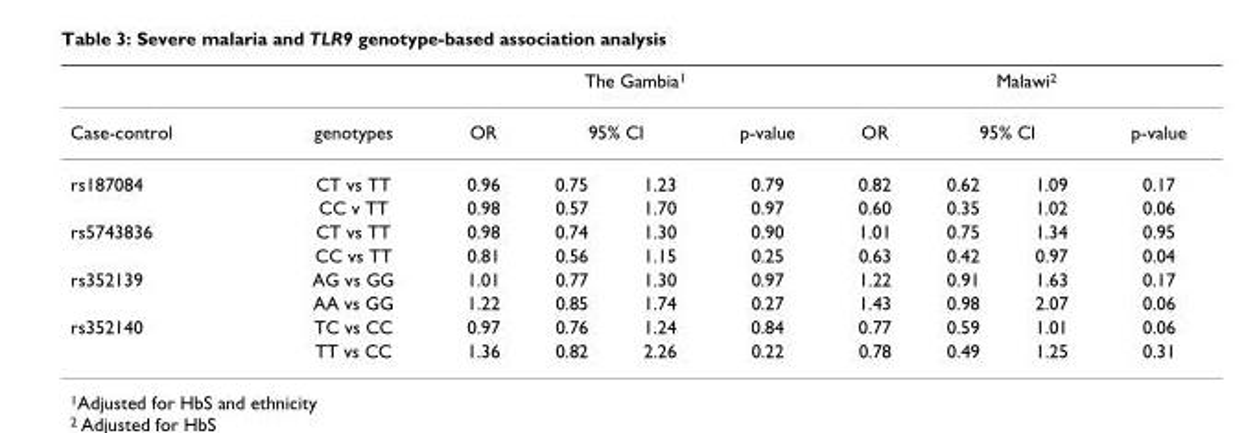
<table><thead><tr><td rowspan="3">Case-control rs187084</td><td rowspan="3">genotypes CT vs TT</td><td colspan="4">The Gambia1</td><td colspan="4">Malawi2</td></tr><tr><td rowspan="2">OR 0.96</td><td colspan="2">95% CI</td><td rowspan="2">p-value 0.79</td><td rowspan="2">OR 0.82</td><td colspan="2">95% CI</td><td rowspan="2">p-value 0.17</td></tr><tr><td>0.75</td><td>1.23</td><td>0.62</td><td>1.09</td></tr></thead><tbody><tr><td></td><td>CC v TT</td><td>0.98</td><td>0.57</td><td>1.70</td><td>0.97</td><td>0.60</td><td>0.35</td><td>1.02</td><td>0.06</td></tr><tr><td rowspan="2">rs5743836</td><td>CT vs TT</td><td>0.98</td><td>0.74</td><td>1.30</td><td>0.90</td><td>1.01</td><td>0.75</td><td>1.34</td><td>0.95</td></tr><tr><td>CC vs TT</td><td>0.81</td><td>0.56</td><td>1.15</td><td>0.25</td><td>0.63</td><td>0.42</td><td>0.97</td><td>0.04</td></tr><tr><td rowspan="2">rs352139</td><td>AG vs GG</td><td>1.01</td><td>0.77</td><td>1.30</td><td>0.97</td><td>1.22</td><td>0.91</td><td>1.63</td><td>0.17</td></tr><tr><td>AA vs GG</td><td>1.22</td><td>0.85</td><td>1.74</td><td>0.27</td><td>1.43</td><td>0.98</td><td>2.07</td><td>0.06</td></tr><tr><td rowspan="2">rs352140</td><td>TC vs CC</td><td>0.97</td><td>0.76</td><td>1.24</td><td>0.84</td><td>0.77</td><td>0.59</td><td>1.01</td><td>0.06</td></tr><tr><td>TT vs CC</td><td>1.36</td><td>0.82</td><td>2.26</td><td>0.22</td><td>0.78</td><td>0.49</td><td>1.25</td><td>0.31</td></tr></tbody></table>